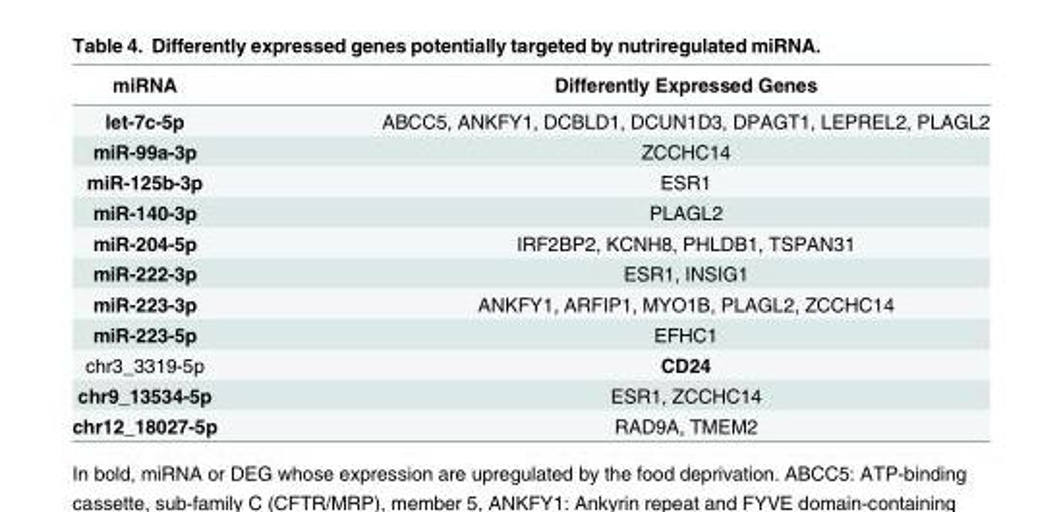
<table><thead><tr><td>miRNA</td><td>Differently Expressed Genes</td></tr></thead><tbody><tr><td>let-7c-5p</td><td>ABCC5, ANKFY1, DCBLD1, DCUN1D3, DPAGT1, LEPREL2, PLAGL2</td></tr><tr><td>miR-99a-3p</td><td>ZCCHC14</td></tr><tr><td>miR-125b-3p</td><td>ESR1</td></tr><tr><td>miR-140-3p</td><td>PLAGL2</td></tr><tr><td>miR-204-5p</td><td>IRF2BP2, KCNH8, PHLDB1, TSPAN31</td></tr><tr><td>miR-222-3p</td><td>ESR1, INSIG1</td></tr><tr><td>miR-223-3p</td><td>ANKFY1, ARFIP1, MYO1B, PLAGL2, ZCCHC14</td></tr><tr><td>miR-223-5p</td><td>EFHC1</td></tr><tr><td>chr3_3319-5p</td><td>CD24</td></tr><tr><td>chr9_13534-5p</td><td>ESR1, ZCCHC14</td></tr><tr><td>chr12_18027-5p</td><td>RAD9A, TMEM2</td></tr></tbody></table>